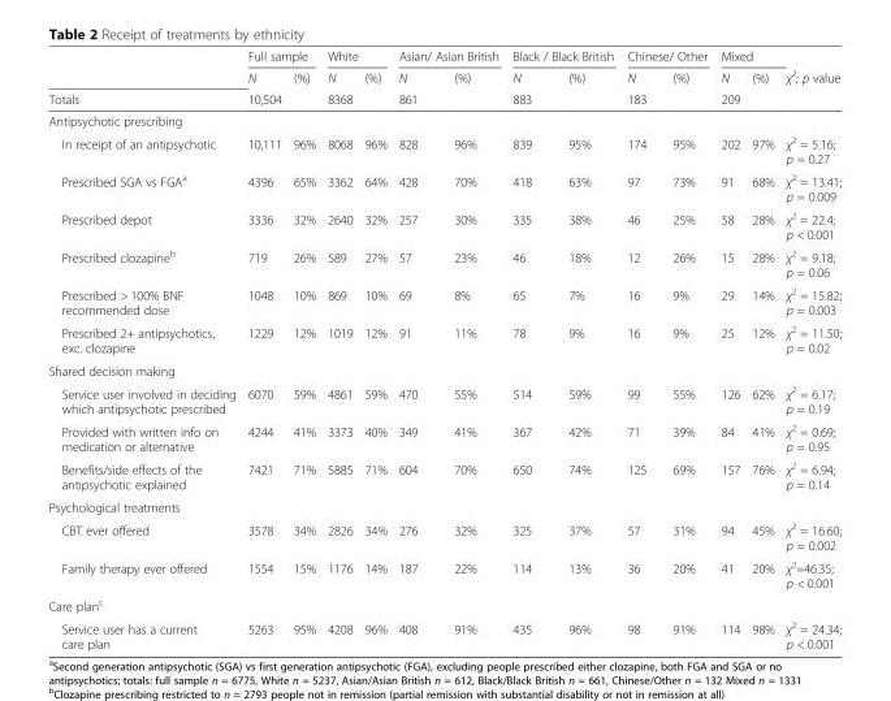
<table><thead><tr><td rowspan="3">Totals</td><td colspan="2">Full sample</td><td colspan="2">White</td><td colspan="2">Asian/ Asian British</td><td colspan="2">Black / Black British</td><td colspan="2">Chinese/ Other</td><td colspan="2">Mixed</td><td rowspan="3">χ<sup>2</sup>; p value</td></tr><tr><td rowspan="2">N 10,504</td><td rowspan="2">(%)</td><td rowspan="2">N 8368</td><td rowspan="2">(%)</td><td rowspan="2">N 861</td><td rowspan="2">(%)</td><td rowspan="2">N 883</td><td rowspan="2">(%)</td><td rowspan="2">N 183</td><td rowspan="2">(%)</td><td rowspan="2">N 209</td><td rowspan="2">(%)</td></tr><tr></tr></thead><tbody><tr><td colspan="14">Antipsychotic prescribing</td></tr><tr><td>In receipt of an antipsychotic</td><td>10,111</td><td>96%</td><td>8068</td><td>96%</td><td>828</td><td>96%</td><td>839</td><td>95%</td><td>174</td><td>95%</td><td>202</td><td>97%</td><td>χ<sup>2</sup> = 5.16; p = 0.27</td></tr><tr><td>Prescribed SGA vs FGA<sup>a</sup></td><td>4396</td><td>65%</td><td>3362</td><td>64%</td><td>428</td><td>70%</td><td>418</td><td>63%</td><td>97</td><td>73%</td><td>91</td><td>68%</td><td>χ<sup>2</sup> = 13.41; p = 0.009</td></tr><tr><td>Prescribed depot</td><td>3336</td><td>32%</td><td>2640</td><td>32%</td><td>257</td><td>30%</td><td>335</td><td>38%</td><td>46</td><td>25%</td><td>58</td><td>28%</td><td>χ<sup>2</sup> = 22.4; p &lt; 0.001</td></tr><tr><td>Prescribed clozapine<sup>b</sup></td><td>719</td><td>26%</td><td>589</td><td>27%</td><td>57</td><td>23%</td><td>46</td><td>18%</td><td>12</td><td>26%</td><td>15</td><td>28%</td><td>χ<sup>2</sup> = 9.18; p = 0.06</td></tr><tr><td>Prescribed &gt; 100% BNF recommended dose</td><td>1048</td><td>10%</td><td>869</td><td>10%</td><td>69</td><td>8%</td><td>65</td><td>7%</td><td>16</td><td>9%</td><td>29</td><td>14%</td><td>χ<sup>2</sup> = 15.82; p = 0.003</td></tr><tr><td>Prescribed 2+ antipsychotics, exc. clozapine</td><td>1229</td><td>12%</td><td>1019</td><td>12%</td><td>91</td><td>11%</td><td>78</td><td>9%</td><td>16</td><td>9%</td><td>25</td><td>12%</td><td>χ<sup>2</sup> = 11.50; p = 0.02</td></tr><tr><td colspan="14">Shared decision making</td></tr><tr><td>Service user involved in deciding which antipsychotic prescribed</td><td>6070</td><td>59%</td><td>4861</td><td>59%</td><td>470</td><td>55%</td><td>514</td><td>59%</td><td>99</td><td>55%</td><td>126</td><td>62%</td><td>χ<sup>2</sup> = 6.17; p = 0.19</td></tr><tr><td>Provided with written info on medication or alternative</td><td>4244</td><td>41%</td><td>3373</td><td>40%</td><td>349</td><td>41%</td><td>367</td><td>42%</td><td>71</td><td>39%</td><td>84</td><td>41%</td><td>χ<sup>2</sup> = 0.69; p = 0.95</td></tr><tr><td>Benefits/side effects of the antipsychotic explained</td><td>7421</td><td>71%</td><td>5885</td><td>71%</td><td>604</td><td>70%</td><td>650</td><td>74%</td><td>125</td><td>69%</td><td>157</td><td>76%</td><td>χ<sup>2</sup> = 6.94; p = 0.14</td></tr><tr><td colspan="14">Psychological treatments</td></tr><tr><td>CBT ever offered</td><td>3578</td><td>34%</td><td>2826</td><td>34%</td><td>276</td><td>32%</td><td>325</td><td>37%</td><td>57</td><td>31%</td><td>94</td><td>45%</td><td>χ<sup>2</sup> = 16.60; p = 0.002</td></tr><tr><td>Family therapy ever offered</td><td>1554</td><td>15%</td><td>1176</td><td>14%</td><td>187</td><td>22%</td><td>114</td><td>13%</td><td>36</td><td>20%</td><td>41</td><td>20%</td><td>χ<sup>2</sup>=46.35; p &lt; 0.001</td></tr><tr><td colspan="14">Care plan<sup>c</sup></td></tr><tr><td>Service user has a current care plan</td><td>5263</td><td>95%</td><td>4208</td><td>96%</td><td>408</td><td>91%</td><td>435</td><td>96%</td><td>98</td><td>91%</td><td>114</td><td>98%</td><td>χ<sup>2</sup> = 24.34; p &lt; 0.001</td></tr></tbody></table>